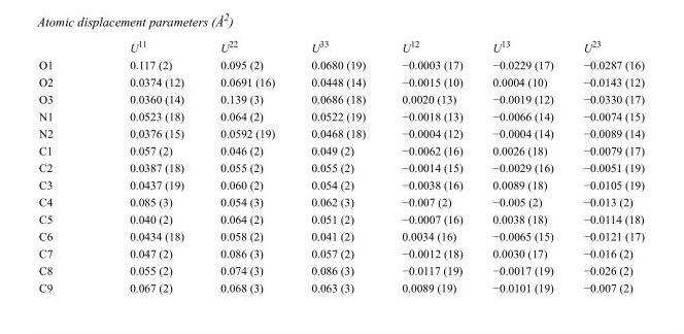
<table><thead><tr><td></td><td>U<sup>11</sup></td><td>U<sup>22</sup></td><td>U<sup>33</sup></td><td>U<sup>12</sup></td><td>U<sup>13</sup></td><td>U<sup>23</sup></td></tr></thead><tbody><tr><td>O1</td><td>0.117 (2)</td><td>0.095 (2)</td><td>0.0680 (19)</td><td>−0.0003 (17)</td><td>−0.0229 (17)</td><td>−0.0287 (16)</td></tr><tr><td>O2</td><td>0.0374 (12)</td><td>0.0691 (16)</td><td>0.0448 (14)</td><td>−0.0015 (10)</td><td>0.0004 (10)</td><td>−0.0143 (12)</td></tr><tr><td>O3</td><td>0.0360 (14)</td><td>0.139 (3)</td><td>0.0686 (18)</td><td>0.0020 (13)</td><td>−0.0019 (12)</td><td>−0.0330 (17)</td></tr><tr><td>N1</td><td>0.0523 (18)</td><td>0.064 (2)</td><td>0.0522 (19)</td><td>−0.0018 (13)</td><td>−0.0066 (14)</td><td>−0.0074 (15)</td></tr><tr><td>N2</td><td>0.0376 (15)</td><td>0.0592 (19)</td><td>0.0468 (18)</td><td>−0.0004 (12)</td><td>−0.0004 (14)</td><td>−0.0089 (14)</td></tr><tr><td>C1</td><td>0.057 (2)</td><td>0.046 (2)</td><td>0.049 (2)</td><td>−0.0062 (16)</td><td>0.0026 (18)</td><td>−0.0079 (17)</td></tr><tr><td>C2</td><td>0.0387 (18)</td><td>0.055 (2)</td><td>0.055 (2)</td><td>−0.0014 (15)</td><td>−0.0029 (16)</td><td>−0.0051 (19)</td></tr><tr><td>C3</td><td>0.0437 (19)</td><td>0.060 (2)</td><td>0.054 (2)</td><td>−0.0038 (16)</td><td>0.0089 (18)</td><td>−0.0105 (19)</td></tr><tr><td>C4</td><td>0.085 (3)</td><td>0.054 (3)</td><td>0.062 (3)</td><td>−0.007 (2)</td><td>−0.005 (2)</td><td>−0.013 (2)</td></tr><tr><td>C5</td><td>0.040 (2)</td><td>0.064 (2)</td><td>0.051 (2)</td><td>−0.0007 (16)</td><td>0.0038 (18)</td><td>−0.0114 (18)</td></tr><tr><td>C6</td><td>0.0434 (18)</td><td>0.058 (2)</td><td>0.041 (2)</td><td>0.0034 (16)</td><td>−0.0065 (15)</td><td>−0.0121 (17)</td></tr><tr><td>C7</td><td>0.047 (2)</td><td>0.086 (3)</td><td>0.057 (2)</td><td>−0.0012 (18)</td><td>0.0030 (17)</td><td>−0.016 (2)</td></tr><tr><td>C8</td><td>0.055 (2)</td><td>0.074 (3)</td><td>0.086 (3)</td><td>−0.0117 (19)</td><td>−0.0017 (19)</td><td>−0.026 (2)</td></tr><tr><td>C9</td><td>0.067 (2)</td><td>0.068 (3)</td><td>0.063 (3)</td><td>0.0089 (19)</td><td>−0.0101 (19)</td><td>−0.007 (2)</td></tr></tbody></table>